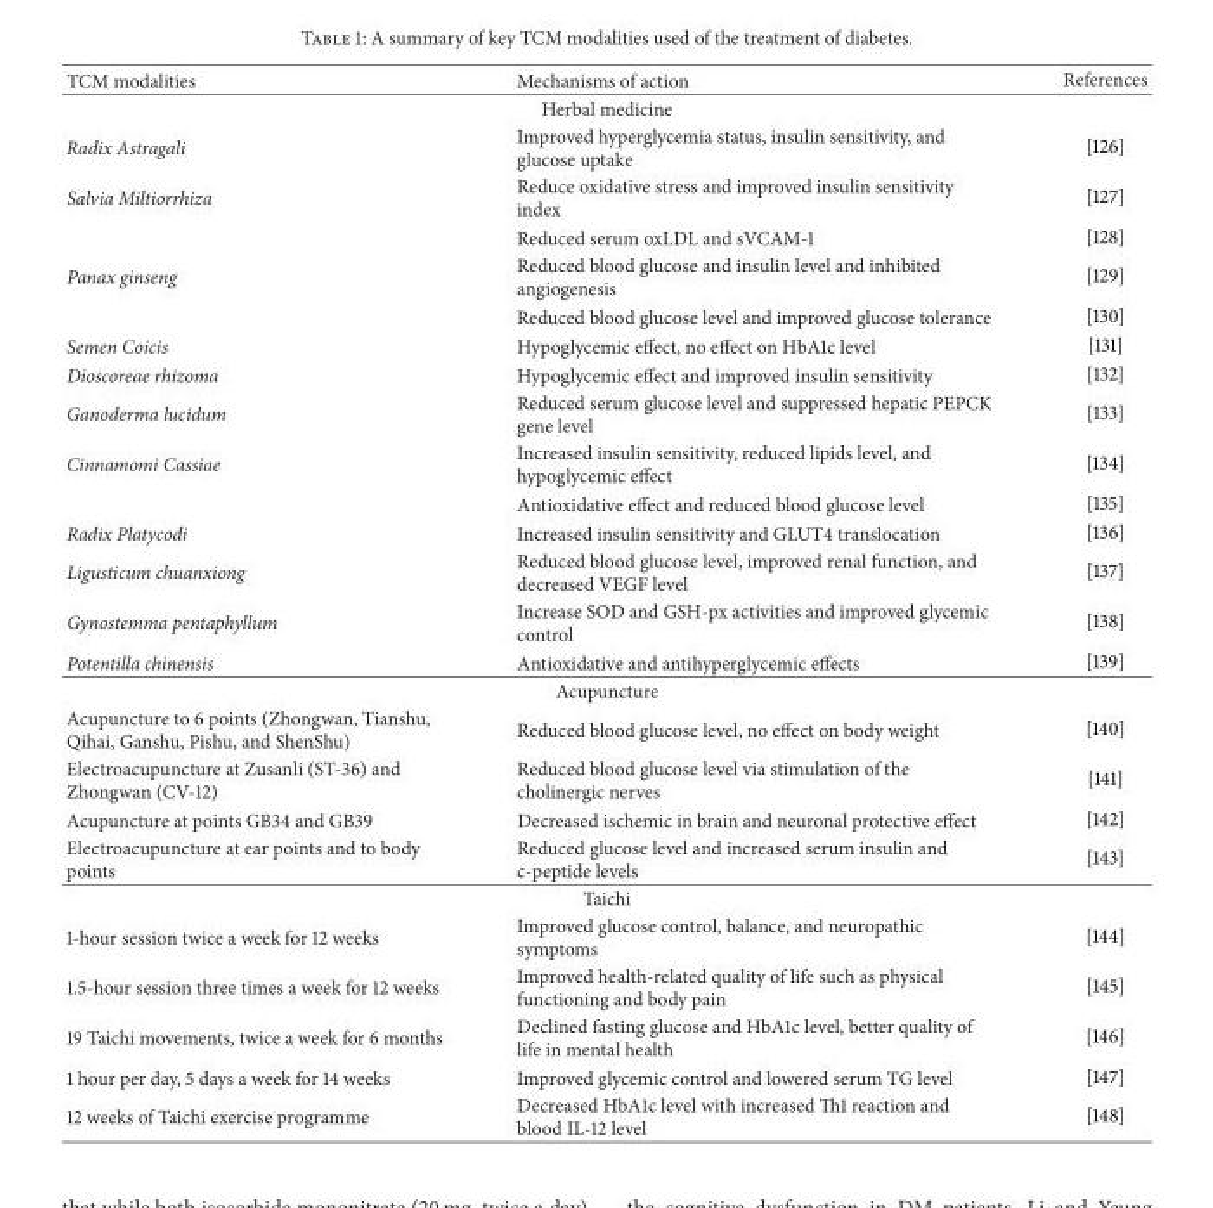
<table><thead><tr><td>TCM modalities</td><td>Mechanisms of action</td><td>References</td></tr></thead><tbody><tr><td colspan="3">Herbal medicine</td></tr><tr><td>Radix Astragali</td><td>Improved hyperglycemia status, insulin sensitivity, and glucose uptake</td><td>[126]</td></tr><tr><td rowspan="2">Salvia Miltiorrhiza</td><td>Reduce oxidative stress and improved insulin sensitivity index</td><td>[127]</td></tr><tr><td>Reduced serum oxLDL and sVCAM-1</td><td>[128]</td></tr><tr><td rowspan="2">Panax ginseng</td><td>Reduced blood glucose and insulin level and inhibited angiogenesis</td><td>[129]</td></tr><tr><td>Reduced blood glucose level and improved glucose tolerance</td><td>[130]</td></tr><tr><td>Semen Coicis</td><td>Hypoglycemic effect, no effect on HbA1c level</td><td>[131]</td></tr><tr><td>Dioscoreae rhizoma</td><td>Hypoglycemic effect and improved insulin sensitivity</td><td>[132]</td></tr><tr><td>Ganoderma lucidum</td><td>Reduced serum glucose level and suppressed hepatic PEPCK gene level</td><td>[133]</td></tr><tr><td rowspan="2">Cinnamomi Cassiae</td><td>Increased insulin sensitivity, reduced lipids level, and hypoglycemic effect</td><td>[134]</td></tr><tr><td>Antioxidative effect and reduced blood glucose level</td><td>[135]</td></tr><tr><td>Radix Platycodi</td><td>Increased insulin sensitivity and GLUT4 translocation</td><td>[136]</td></tr><tr><td>Ligusticum chuanxiong</td><td>Reduced blood glucose level, improved renal function, and decreased VEGF level</td><td>[137]</td></tr><tr><td>Gynostemma pentaphyllum</td><td>Increase SOD and GSH-px activities and improved glycemic control</td><td>[138]</td></tr><tr><td>Potentilla chinensis</td><td>Antioxidative and antihyperglycemic effects</td><td>[139]</td></tr><tr><td colspan="3">Acupuncture</td></tr><tr><td>Acupuncture to 6 points (Zhongwan, Tianshu, Qihai, Ganshu, Pishu, and ShenShu)</td><td>Reduced blood glucose level, no effect on body weight</td><td>[140]</td></tr><tr><td>Electroacupuncture at Zusanli (ST-36) and Zhongwan (CV-12)</td><td>Reduced blood glucose level via stimulation of the cholinergic nerves</td><td>[141]</td></tr><tr><td>Acupuncture at points GB34 and GB39</td><td>Decreased ischemic in brain and neuronal protective effect</td><td>[142]</td></tr><tr><td>Electroacupuncture at ear points and to body points</td><td>Reduced glucose level and increased serum insulin and c-peptide levels</td><td>[143]</td></tr><tr><td colspan="3">Taichi</td></tr><tr><td>1-hour session twice a week for 12 weeks</td><td>Improved glucose control, balance, and neuropathic symptoms</td><td>[144]</td></tr><tr><td>1.5-hour session three times a week for 12 weeks</td><td>Improved health-related quality of life such as physical functioning and body pain</td><td>[145]</td></tr><tr><td>19 Taichi movements, twice a week for 6 months</td><td>Declined fasting glucose and HbA1c level, better quality of life in mental health</td><td>[146]</td></tr><tr><td>1 hour per day, 5 days a week for 14 weeks</td><td>Improved glycemic control and lowered serum TG level</td><td>[147]</td></tr><tr><td>12 weeks of Taichi exercise programme</td><td>Decreased HbA1c level with increased Th1 reaction and blood IL-12 level</td><td>[148]</td></tr></tbody></table>